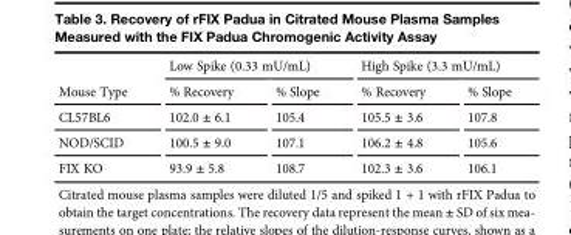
<table><thead><tr><td rowspan="2">Mouse Type</td><td colspan="2">Low Spike (0.33 mU/mL)</td><td colspan="2">High Spike (3.3 mU/mL)</td></tr><tr><td>% Recovery</td><td>% Slope</td><td>% Recovery</td><td>% Slope</td></tr></thead><tbody><tr><td>CL57BL6</td><td>102.0 ± 6.1</td><td>105.4</td><td>105.5 ± 3.6</td><td>107.8</td></tr><tr><td>NOD/SCID</td><td>100.5 ± 9.0</td><td>107.1</td><td>106.2 ± 4.8</td><td>105.6</td></tr><tr><td>FIX KO</td><td>93.9 ± 5.8</td><td>108.7</td><td>102.3 ± 3.6</td><td>106.1</td></tr></tbody></table>